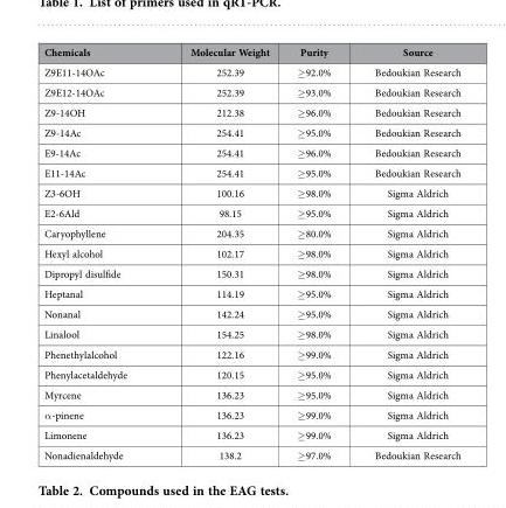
<table><thead><tr><td>Chemicals</td><td>Molecular Weight</td><td>Purity</td><td>Source</td></tr></thead><tbody><tr><td>Z9E11-14OAc</td><td>252.39</td><td>≥ 92.0%</td><td>Bedoukian Research</td></tr><tr><td>Z9E12-14OAc</td><td>252.39</td><td>≥ 93.0%</td><td>Bedoukian Research</td></tr><tr><td>Z9-14OH</td><td>212.38</td><td>≥ 96.0%</td><td>Bedoukian Research</td></tr><tr><td>Z9-14Ac</td><td>254.41</td><td>≥ 95.0%</td><td>Bedoukian Research</td></tr><tr><td>E9-14Ac</td><td>254.41</td><td>≥ 96.0%</td><td>Bedoukian Research</td></tr><tr><td>E11-14Ac</td><td>254.41</td><td>≥ 95.0%</td><td>Bedoukian Research</td></tr><tr><td>Z3-6OH</td><td>100.16</td><td>≥ 98.0%</td><td>Sigma Aldrich</td></tr><tr><td>E2-6Ald</td><td>98.15</td><td>≥ 95.0%</td><td>Sigma Aldrich</td></tr><tr><td>Caryophyllene</td><td>204.35</td><td>≥ 80.0%</td><td>Sigma Aldrich</td></tr><tr><td>Hexyl alcohol</td><td>102.17</td><td>≥ 98.0%</td><td>Sigma Aldrich</td></tr><tr><td>Dipropyl disulfide</td><td>150.31</td><td>≥ 98.0%</td><td>Sigma Aldrich</td></tr><tr><td>Heptanal</td><td>114.19</td><td>≥ 95.0%</td><td>Sigma Aldrich</td></tr><tr><td>Nonanal</td><td>142.24</td><td>≥ 95.0%</td><td>Sigma Aldrich</td></tr><tr><td>Linalool</td><td>154.25</td><td>≥ 98.0%</td><td>Sigma Aldrich</td></tr><tr><td>Phenethylalcohol</td><td>122.16</td><td>≥ 99.0%</td><td>Sigma Aldrich</td></tr><tr><td>Phenylacetaldehyde</td><td>120.15</td><td>≥ 95.0%</td><td>Sigma Aldrich</td></tr><tr><td>Myrcene</td><td>136.23</td><td>≥ 95.0%</td><td>Sigma Aldrich</td></tr><tr><td>α -pinene</td><td>136.23</td><td>≥ 99.0%</td><td>Sigma Aldrich</td></tr><tr><td>Limonene</td><td>136.23</td><td>≥ 99.0%</td><td>Sigma Aldrich</td></tr><tr><td>Nonadienaldehyde</td><td>138.2</td><td>≥ 97.0%</td><td>Bedoukian Research</td></tr></tbody></table>